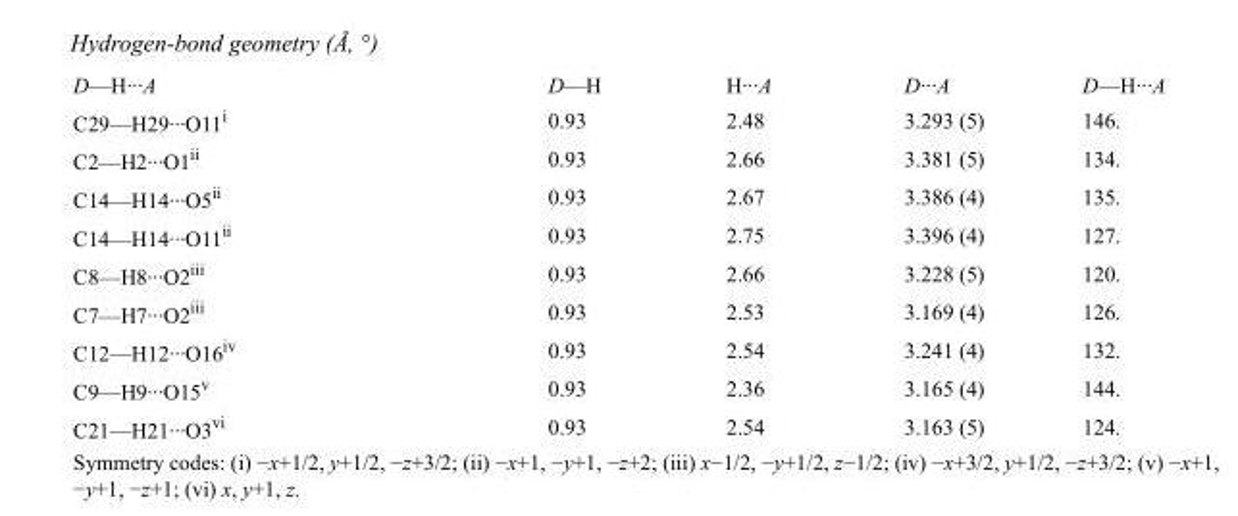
<table><tbody><tr><td>D—H···A</td><td>D—H</td><td>H···A</td><td>D···A</td><td>D—H···A</td></tr><tr><td>C29—H29···O11<sup>i</sup></td><td>0.93</td><td>2.48</td><td>3.293 (5)</td><td>146.</td></tr><tr><td>C2—H2···O1<sup>ii</sup></td><td>0.93</td><td>2.66</td><td>3.381 (5)</td><td>134.</td></tr><tr><td>C14—H14···O5<sup>ii</sup></td><td>0.93</td><td>2.67</td><td>3.386 (4)</td><td>135.</td></tr><tr><td>C14—H14···O11<sup>ii</sup></td><td>0.93</td><td>2.75</td><td>3.396 (4)</td><td>127.</td></tr><tr><td>C8—H8···O2<sup>iii</sup></td><td>0.93</td><td>2.66</td><td>3.228 (5)</td><td>120.</td></tr><tr><td>C7—H7···O2<sup>iii</sup></td><td>0.93</td><td>2.53</td><td>3.169 (4)</td><td>126.</td></tr><tr><td>C12—H12···O16<sup>iv</sup></td><td>0.93</td><td>2.54</td><td>3.241 (4)</td><td>132.</td></tr><tr><td>C9—H9···O15<sup>v</sup></td><td>0.93</td><td>2.36</td><td>3.165 (4)</td><td>144.</td></tr><tr><td>C21—H21···O3<sup>vi</sup></td><td>0.93</td><td>2.54</td><td>3.163 (5)</td><td>124.</td></tr></tbody></table>